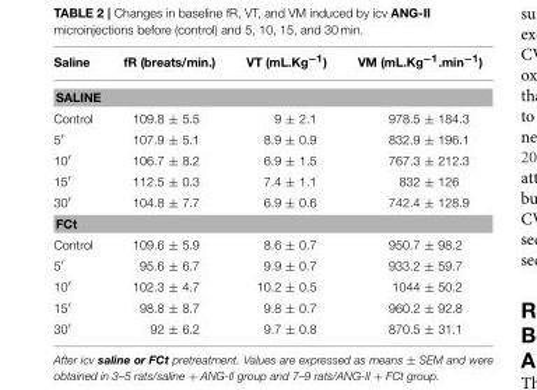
<table><thead><tr><td>Saline</td><td>fR (breats/min.)</td><td>VT (mL.Kg<sup>−1</sup>)</td><td>VM (mL.Kg<sup>−1</sup>.min<sup>−1</sup>)</td></tr></thead><tbody><tr><td colspan="4">SALINE</td></tr><tr><td>Control</td><td>109.8 ± 5.5</td><td>9 ± 2.1</td><td>978.5 ± 184.3</td></tr><tr><td>5′</td><td>107.9 ± 5.1</td><td>8.9 ± 0.9</td><td>832.9 ± 196.1</td></tr><tr><td>10′</td><td>106.7 ± 8.2</td><td>6.9 ± 1.5</td><td>767.3 ± 212.3</td></tr><tr><td>15′</td><td>112.5 ± 0.3</td><td>7.4 ± 1.1</td><td>832 ± 126</td></tr><tr><td>30′</td><td>104.8 ± 7.7</td><td>6.9 ± 0.6</td><td>742.4 ± 128.9</td></tr><tr><td colspan="4">FCt</td></tr><tr><td>Control</td><td>109.6 ± 5.9</td><td>8.6 ± 0.7</td><td>950.7 ± 98.2</td></tr><tr><td>5′</td><td>95.6 ± 6.7</td><td>9.9 ± 0.7</td><td>933.2 ± 59.7</td></tr><tr><td>10′</td><td>102.3 ± 4.7</td><td>10.2 ± 0.5</td><td>1044 ± 50.2</td></tr><tr><td>15′</td><td>98.8 ± 8.7</td><td>9.8 ± 0.7</td><td>960.2 ± 92.8</td></tr><tr><td>30′</td><td>92 ± 6.2</td><td>9.7 ± 0.8</td><td>870.5 ± 31.1</td></tr></tbody></table>